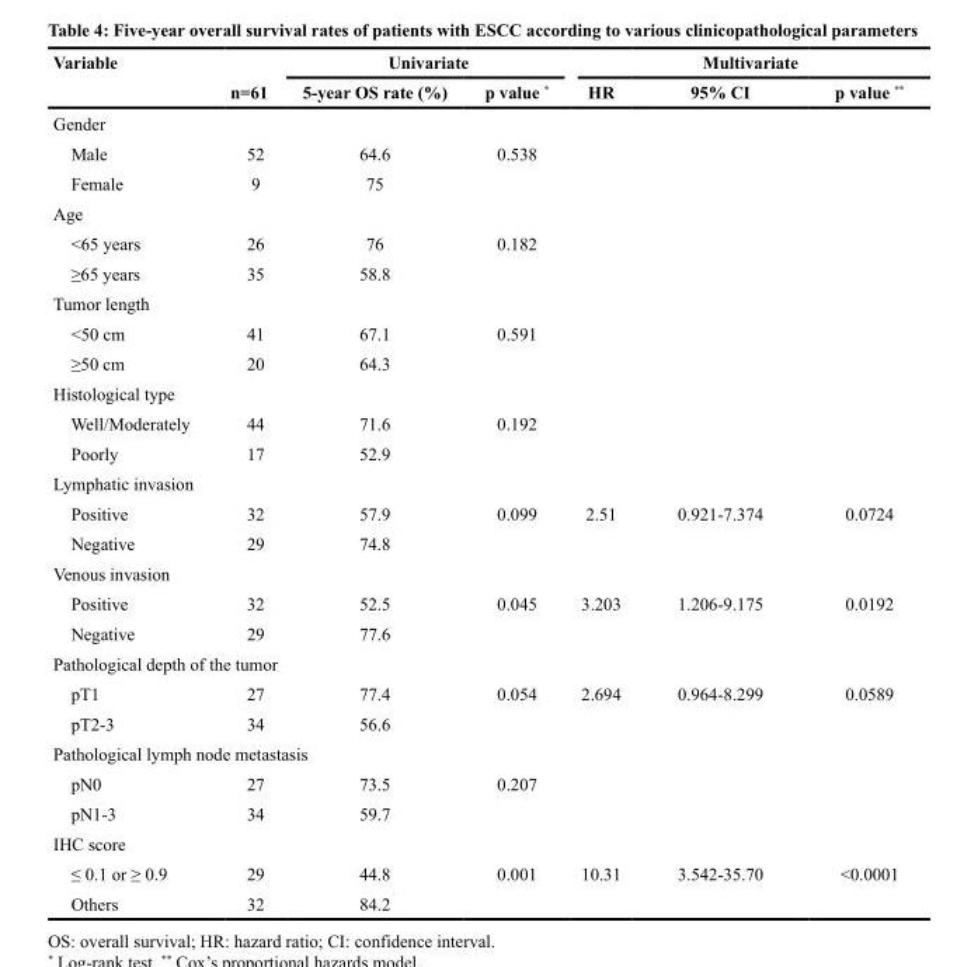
<table><thead><tr><td rowspan="2">Variable</td><td rowspan="2">n=61</td><td colspan="2">Univariate</td><td colspan="3">Multivariate</td></tr><tr><td>5-year OS rate (%)</td><td>p value *</td><td>HR</td><td>95% CI</td><td>p value **</td></tr></thead><tbody><tr><td colspan="7">Gender</td></tr><tr><td>Male</td><td>52</td><td>64.6</td><td>0.538</td><td></td><td></td><td></td></tr><tr><td>Female</td><td>9</td><td>75</td><td></td><td></td><td></td><td></td></tr><tr><td colspan="7">Age</td></tr><tr><td>&lt;65 years</td><td>26</td><td>76</td><td>0.182</td><td></td><td></td><td></td></tr><tr><td>≥65 years</td><td>35</td><td>58.8</td><td></td><td></td><td></td><td></td></tr><tr><td colspan="7">Tumor length</td></tr><tr><td>&lt;50 cm</td><td>41</td><td>67.1</td><td>0.591</td><td></td><td></td><td></td></tr><tr><td>≥50 cm</td><td>20</td><td>64.3</td><td></td><td></td><td></td><td></td></tr><tr><td colspan="7">Histological type</td></tr><tr><td>Well/Moderately</td><td>44</td><td>71.6</td><td>0.192</td><td></td><td></td><td></td></tr><tr><td>Poorly</td><td>17</td><td>52.9</td><td></td><td></td><td></td><td></td></tr><tr><td colspan="7">Lymphatic invasion</td></tr><tr><td>Positive</td><td>32</td><td>57.9</td><td>0.099</td><td>2.51</td><td>0.921-7.374</td><td>0.0724</td></tr><tr><td>Negative</td><td>29</td><td>74.8</td><td></td><td></td><td></td><td></td></tr><tr><td colspan="7">Venous invasion</td></tr><tr><td>Positive</td><td>32</td><td>52.5</td><td>0.045</td><td>3.203</td><td>1.206-9.175</td><td>0.0192</td></tr><tr><td>Negative</td><td>29</td><td>77.6</td><td></td><td></td><td></td><td></td></tr><tr><td colspan="7">Pathological depth of the tumor</td></tr><tr><td>pT1</td><td>27</td><td>77.4</td><td>0.054</td><td>2.694</td><td>0.964-8.299</td><td>0.0589</td></tr><tr><td>pT2-3</td><td>34</td><td>56.6</td><td></td><td></td><td></td><td></td></tr><tr><td colspan="7">Pathological lymph node metastasis</td></tr><tr><td>pN0</td><td>27</td><td>73.5</td><td>0.207</td><td></td><td></td><td></td></tr><tr><td>pN1-3</td><td>34</td><td>59.7</td><td></td><td></td><td></td><td></td></tr><tr><td colspan="7">IHC score</td></tr><tr><td>≤ 0.1 or ≥ 0.9</td><td>29</td><td>44.8</td><td>0.001</td><td>10.31</td><td>3.542-35.70</td><td>&lt;0.0001</td></tr><tr><td>Others</td><td>32</td><td>84.2</td><td></td><td></td><td></td><td></td></tr></tbody></table>